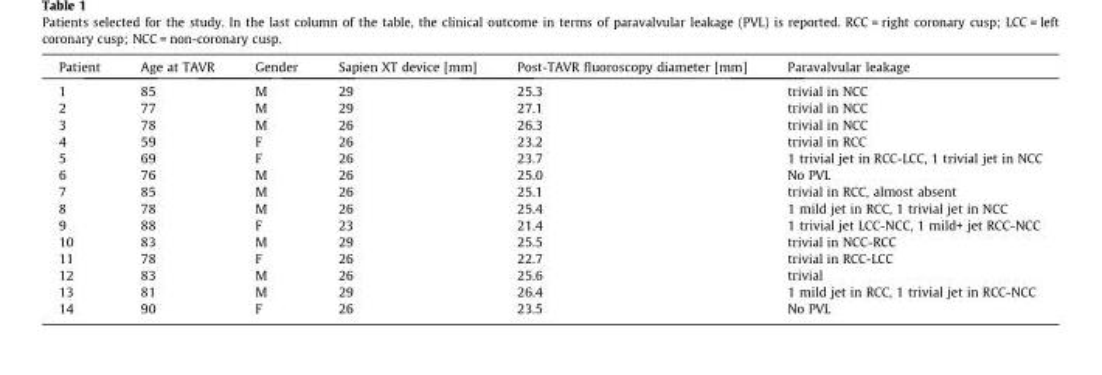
<table><thead><tr><td>Patient</td><td>Age at TAVR</td><td>Gender</td><td>Sapien XT device [mm]</td><td>Post-TAVR fluoroscopy diameter [mm]</td><td>Paravalvular leakage</td></tr></thead><tbody><tr><td>1</td><td>85</td><td>M</td><td>29</td><td>25.3</td><td>trivial in NCC</td></tr><tr><td>2</td><td>77</td><td>M</td><td>29</td><td>27.1</td><td>trivial in NCC</td></tr><tr><td>3</td><td>78</td><td>M</td><td>26</td><td>26.3</td><td>trivial in NCC</td></tr><tr><td>4</td><td>59</td><td>F</td><td>26</td><td>23.2</td><td>trivial in RCC</td></tr><tr><td>5</td><td>69</td><td>F</td><td>26</td><td>23.7</td><td>1 trivial jet in RCC-LCC, 1 trivial jet in NCC</td></tr><tr><td>6</td><td>76</td><td>M</td><td>26</td><td>25.0</td><td>No PVL</td></tr><tr><td>7</td><td>85</td><td>M</td><td>26</td><td>25.1</td><td>trivial in RCC, almost absent</td></tr><tr><td>8</td><td>78</td><td>M</td><td>26</td><td>25.4</td><td>1 mild jet in RCC, 1 trivial jet in NCC</td></tr><tr><td>9</td><td>88</td><td>F</td><td>23</td><td>21.4</td><td>1 trivial jet LCC-NCC, 1 mild+ jet RCC-NCC</td></tr><tr><td>10</td><td>83</td><td>M</td><td>29</td><td>25.5</td><td>trivial in NCC-RCC</td></tr><tr><td>11</td><td>78</td><td>F</td><td>26</td><td>22.7</td><td>trivial in RCC-LCC</td></tr><tr><td>12</td><td>83</td><td>M</td><td>26</td><td>25.6</td><td>trivial</td></tr><tr><td>13</td><td>81</td><td>M</td><td>29</td><td>26.4</td><td>1 mild jet in RCC, 1 trivial jet in RCC-NCC</td></tr><tr><td>14</td><td>90</td><td>F</td><td>26</td><td>23.5</td><td>No PVL</td></tr></tbody></table>